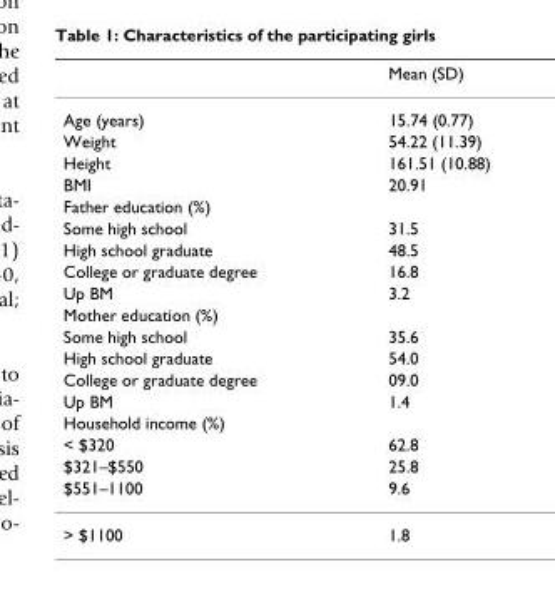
<table><thead><tr><td></td><td>Mean (SD)</td></tr></thead><tbody><tr><td>Age (years)</td><td>15.74 (0.77)</td></tr><tr><td>Weight</td><td>54.22 (11.39)</td></tr><tr><td>Height</td><td>161.51 (10.88)</td></tr><tr><td>BMI</td><td>20.91</td></tr><tr><td colspan="2">Father education (%)</td></tr><tr><td>Some high school</td><td>31.5</td></tr><tr><td>High school graduate</td><td>48.5</td></tr><tr><td>College or graduate degree</td><td>16.8</td></tr><tr><td>Up BM</td><td>3.2</td></tr><tr><td colspan="2">Mother education (%)</td></tr><tr><td>Some high school</td><td>35.6</td></tr><tr><td>High school graduate</td><td>54.0</td></tr><tr><td>College or graduate degree</td><td>09.0</td></tr><tr><td>Up BM</td><td>1.4</td></tr><tr><td colspan="2">Household income (%)</td></tr><tr><td>&lt; $320</td><td>62.8</td></tr><tr><td>$321–$550</td><td>25.8</td></tr><tr><td>$551–1100</td><td>9.6</td></tr><tr><td>&gt; $1100</td><td>1.8</td></tr></tbody></table>